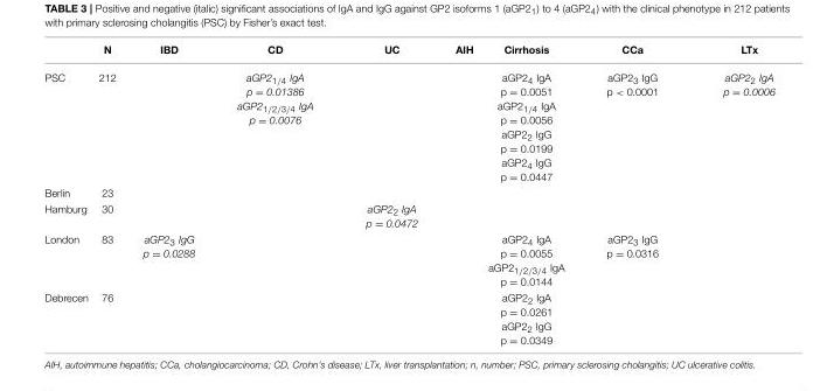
<table><thead><tr><td></td><td>N</td><td>IBD</td><td>CD</td><td>UC</td><td>AIH</td><td>Cirrhosis</td><td>CCa</td><td>LTx</td></tr></thead><tbody><tr><td>PSC</td><td>212</td><td></td><td>aGP2<sub>1/4</sub> IgA p = 0.01386 aGP2<sub>1/2/3/4</sub> IgA p = 0.0076</td><td></td><td></td><td>aGP2<sub>4</sub> IgA p = 0.0051 aGP2<sub>1/4</sub> IgA p = 0.0056 aGP2<sub>2</sub> IgG p = 0.0199 aGP2<sub>4</sub> IgG p = 0.0447</td><td>aGP2<sub>3</sub> IgG p &lt; 0.0001</td><td>aGP2<sub>2</sub> IgA p = 0.0006</td></tr><tr><td>Berlin</td><td>23</td><td></td><td></td><td></td><td></td><td></td><td></td><td></td></tr><tr><td>Hamburg</td><td>30</td><td></td><td></td><td>aGP2<sub>2</sub> IgA p = 0.0472</td><td></td><td></td><td></td><td></td></tr><tr><td>London</td><td>83</td><td>aGP2<sub>3</sub> IgG p = 0.0288</td><td></td><td></td><td></td><td>aGP2<sub>4</sub> IgA p = 0.0055 aGP2<sub>1/2/3/4</sub> IgA p = 0.0144</td><td>aGP2<sub>3</sub> IgG p = 0.0316</td><td></td></tr><tr><td>Debrecen</td><td>76</td><td></td><td></td><td></td><td></td><td>aGP2<sub>2</sub> IgA p = 0.0261 aGP2<sub>2</sub> IgG p = 0.0349</td><td></td><td></td></tr></tbody></table>